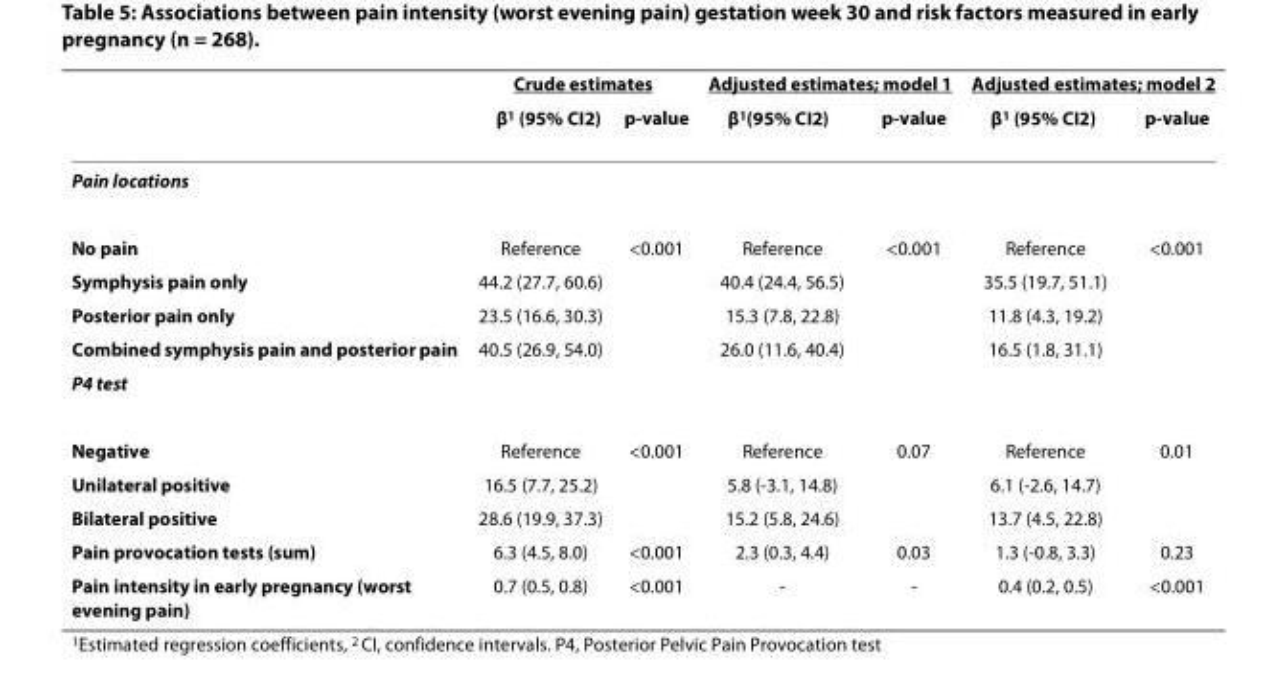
<table><thead><tr><td rowspan="2"></td><td colspan="2">Crude estimates</td><td colspan="2">Adjusted estimates; model 1</td><td colspan="2">Adjusted estimates; model 2</td></tr><tr><td>β<sup>1</sup> (95% CI<sup>2</sup>)</td><td>p-value</td><td>β<sup>1</sup>(95% CI<sup>2</sup>)</td><td>p-value</td><td>β<sup>1</sup> (95% CI<sup>2</sup>)</td><td>p-value</td></tr></thead><tbody><tr><td colspan="7">Pain locations</td></tr><tr><td>No pain</td><td>Reference</td><td>&lt;0.001</td><td>Reference</td><td>&lt;0.001</td><td>Reference</td><td>&lt;0.001</td></tr><tr><td>Symphysis pain only</td><td>44.2 (27.7, 60.6)</td><td></td><td>40.4 (24.4, 56.5)</td><td></td><td>35.5 (19.7, 51.1)</td><td></td></tr><tr><td>Posterior pain only</td><td>23.5 (16.6, 30.3)</td><td></td><td>15.3 (7.8, 22.8)</td><td></td><td>11.8 (4.3, 19.2)</td><td></td></tr><tr><td>Combined symphysis pain and posterior pain</td><td>40.5 (26.9, 54.0)</td><td></td><td>26.0 (11.6, 40.4)</td><td></td><td>16.5 (1.8, 31.1)</td><td></td></tr><tr><td colspan="7">P4 test</td></tr><tr><td>Negative</td><td>Reference</td><td>&lt;0.001</td><td>Reference</td><td>0.07</td><td>Reference</td><td>0.01</td></tr><tr><td>Unilateral positive</td><td>16.5 (7.7, 25.2)</td><td></td><td>5.8 (-3.1, 14.8)</td><td></td><td>6.1 (-2.6, 14.7)</td><td></td></tr><tr><td>Bilateral positive</td><td>28.6 (19.9, 37.3)</td><td></td><td>15.2 (5.8, 24.6)</td><td></td><td>13.7 (4.5, 22.8)</td><td></td></tr><tr><td>Pain provocation tests (sum)</td><td>6.3 (4.5, 8.0)</td><td>&lt;0.001</td><td>2.3 (0.3, 4.4)</td><td>0.03</td><td>1.3 (-0.8, 3.3)</td><td>0.23</td></tr><tr><td>Pain intensity in early pregnancy (worst evening pain)</td><td>0.7 (0.5, 0.8)</td><td>&lt;0.001</td><td>-</td><td>-</td><td>0.4 (0.2, 0.5)</td><td>&lt;0.001</td></tr></tbody></table>